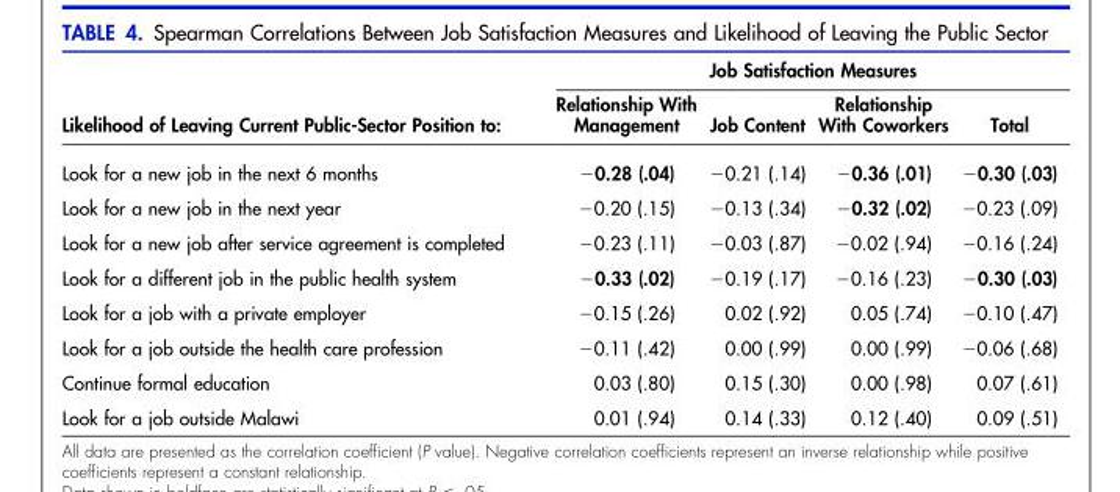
<table><thead><tr><td rowspan="2">Likelihood of Leaving Current Public-Sector Position to:</td><td colspan="4">Job Satisfaction Measures</td></tr><tr><td>Relationship With Management</td><td>Job Content</td><td>Relationship With Coworkers</td><td>Total</td></tr></thead><tbody><tr><td>Look for a new job in the next 6 months</td><td>−0.28 (.04)</td><td>−0.21 (.14)</td><td>−0.36 (.01)</td><td>−0.30 (.03)</td></tr><tr><td>Look for a new job in the next year</td><td>−0.20 (.15)</td><td>−0.13 (.34)</td><td>−0.32 (.02)</td><td>−0.23 (.09)</td></tr><tr><td>Look for a new job after service agreement is completed</td><td>−0.23 (.11)</td><td>−0.03 (.87)</td><td>−0.02 (.94)</td><td>−0.16 (.24)</td></tr><tr><td>Look for a different job in the public health system</td><td>−0.33 (.02)</td><td>−0.19 (.17)</td><td>−0.16 (.23)</td><td>−0.30 (.03)</td></tr><tr><td>Look for a job with a private employer</td><td>−0.15 (.26)</td><td>0.02 (.92)</td><td>0.05 (.74)</td><td>−0.10 (.47)</td></tr><tr><td>Look for a job outside the health care profession</td><td>−0.11 (.42)</td><td>0.00 (.99)</td><td>0.00 (.99)</td><td>−0.06 (.68)</td></tr><tr><td>Continue formal education</td><td>0.03 (.80)</td><td>0.15 (.30)</td><td>0.00 (.98)</td><td>0.07 (.61)</td></tr><tr><td>Look for a job outside Malawi</td><td>0.01 (.94)</td><td>0.14 (.33)</td><td>0.12 (.40)</td><td>0.09 (.51)</td></tr></tbody></table>